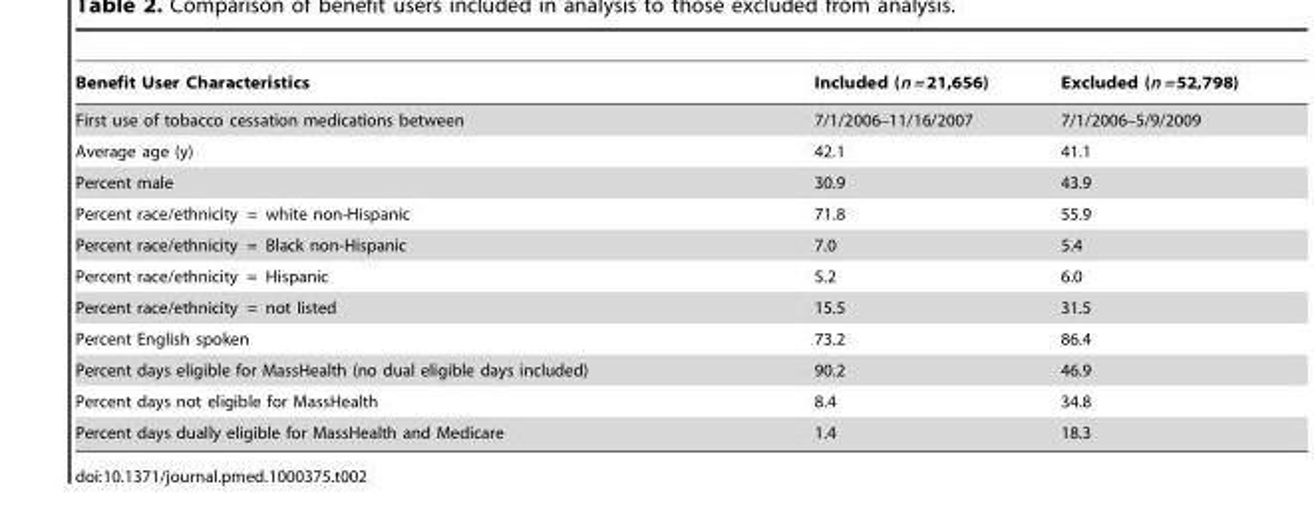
<table><thead><tr><td>Benefit User Characteristics</td><td>Included (n = 21,656)</td><td>Excluded (n = 52,798)</td></tr></thead><tbody><tr><td>First use of tobacco cessation medications between</td><td>7/1/2006–11/16/2007</td><td>7/1/2006–5/9/2009</td></tr><tr><td>Average age (y)</td><td>42.1</td><td>41.1</td></tr><tr><td>Percent male</td><td>30.9</td><td>43.9</td></tr><tr><td>Percent race/ethnicity = white non-Hispanic</td><td>71.8</td><td>55.9</td></tr><tr><td>Percent race/ethnicity = Black non-Hispanic</td><td>7.0</td><td>5.4</td></tr><tr><td>Percent race/ethnicity = Hispanic</td><td>5.2</td><td>6.0</td></tr><tr><td>Percent race/ethnicity = not listed</td><td>15.5</td><td>31.5</td></tr><tr><td>Percent English spoken</td><td>73.2</td><td>86.4</td></tr><tr><td>Percent days eligible for MassHealth (no dual eligible days included)</td><td>90.2</td><td>46.9</td></tr><tr><td>Percent days not eligible for MassHealth</td><td>8.4</td><td>34.8</td></tr><tr><td>Percent days dually eligible for MassHealth and Medicare</td><td>1.4</td><td>18.3</td></tr></tbody></table>